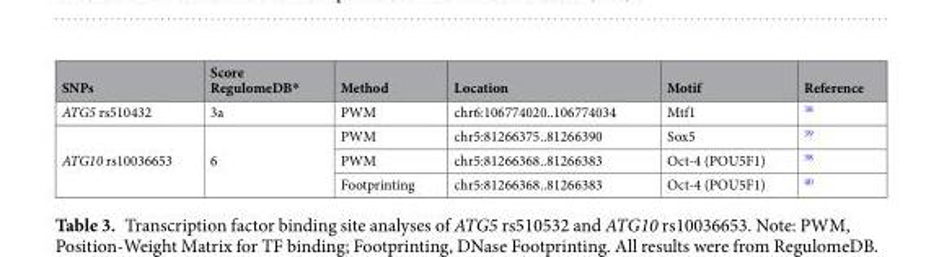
<table><thead><tr><td>SNPs</td><td>Score RegulomeDB*</td><td>Method</td><td>Location</td><td>Motif</td><td>Reference</td></tr></thead><tbody><tr><td>ATG5 rs510432</td><td>3a</td><td>PWM</td><td>chr6:106774020..106774034</td><td>Mtf1</td><td><sup>38</sup></td></tr><tr><td rowspan="3">ATG10 rs10036653</td><td rowspan="3">6</td><td>PWM</td><td>chr5:81266375..81266390</td><td>Sox5</td><td><sup>39</sup></td></tr><tr><td>PWM</td><td>chr5:81266368..81266383</td><td>Oct-4 (POU5F1)</td><td><sup>38</sup></td></tr><tr><td>Footprinting</td><td>chr5:81266368..81266383</td><td>Oct-4 (POU5F1)</td><td><sup>40</sup></td></tr></tbody></table>